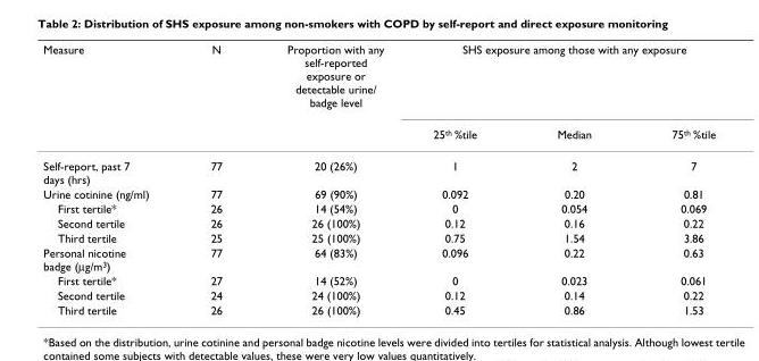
<table><thead><tr><td rowspan="2">Measure</td><td rowspan="2">N</td><td rowspan="2">Proportion with any self-reported exposure or detectable urine/ badge level</td><td colspan="3">SHS exposure among those with any exposure</td></tr><tr><td>25th %tile</td><td>Median</td><td>75th %tile</td></tr></thead><tbody><tr><td>Self-report, past 7 days (hrs)</td><td>77</td><td>20 (26%)</td><td>1</td><td>2</td><td>7</td></tr><tr><td>Urine cotinine (ng/ml)</td><td>77</td><td>69 (90%)</td><td>0.092</td><td>0.20</td><td>0.81</td></tr><tr><td>First tertile*</td><td>26</td><td>14 (54%)</td><td>0</td><td>0.054</td><td>0.069</td></tr><tr><td>Second tertile</td><td>26</td><td>26 (100%)</td><td>0.12</td><td>0.16</td><td>0.22</td></tr><tr><td>Third tertile</td><td>25</td><td>25 (100%)</td><td>0.75</td><td>1.54</td><td>3.86</td></tr><tr><td>Personal nicotine badge (μg/m3)</td><td>77</td><td>64 (83%)</td><td>0.096</td><td>0.22</td><td>0.63</td></tr><tr><td>First tertile*</td><td>27</td><td>14 (52%)</td><td>0</td><td>0.023</td><td>0.061</td></tr><tr><td>Second tertile</td><td>24</td><td>24 (100%)</td><td>0.12</td><td>0.14</td><td>0.22</td></tr><tr><td>Third tertile</td><td>26</td><td>26 (100%)</td><td>0.45</td><td>0.86</td><td>1.53</td></tr></tbody></table>